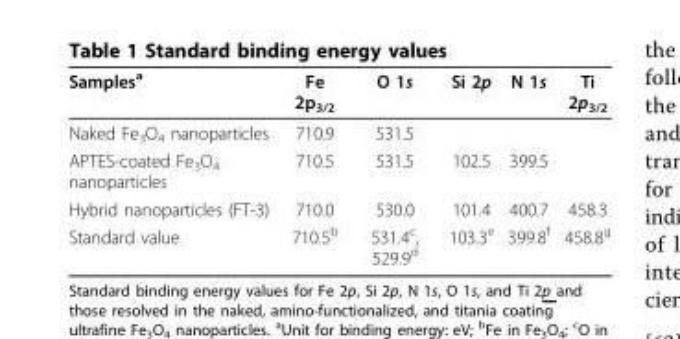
<table><thead><tr><td>Samples<sup>a</sup></td><td>Fe 2p<sub>3/2</sub></td><td>O 1s</td><td>Si 2p</td><td>N 1s</td><td>Ti 2p<sub>3/2</sub></td></tr></thead><tbody><tr><td>Naked Fe<sub>3</sub>O<sub>4</sub> nanoparticles</td><td>710.9</td><td>531.5</td><td></td><td></td><td></td></tr><tr><td>APTES-coated Fe<sub>3</sub>O<sub>4</sub> nanoparticles</td><td>710.5</td><td>531.5</td><td>102.5</td><td>399.5</td><td></td></tr><tr><td>Hybrid nanoparticles (FT-3)</td><td>710.0</td><td>530.0</td><td>101.4</td><td>400.7</td><td>458.3</td></tr><tr><td>Standard value</td><td>710.5<sup>b</sup></td><td>531.4<sup>c</sup>, 529.9<sup>d</sup></td><td>103.3<sup>e</sup></td><td>399.8<sup>f</sup></td><td>458.8<sup>g</sup></td></tr></tbody></table>